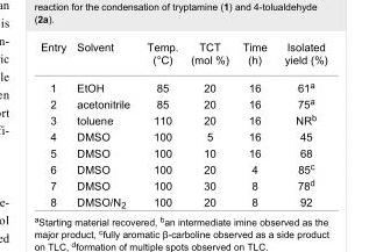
<table><tbody><tr><td>Entry</td><td>Solvent</td><td>Temp. (°C)</td><td>TCT (mol %)</td><td>Time (h)</td><td>Isolated yield (%)</td></tr><tr><td>1</td><td>EtOH</td><td>85</td><td>20</td><td>16</td><td>61<sup>a</sup></td></tr><tr><td>2</td><td>acetonitrile</td><td>85</td><td>20</td><td>16</td><td>75<sup>a</sup></td></tr><tr><td>3</td><td>toluene</td><td>110</td><td>20</td><td>16</td><td>NR<sup>b</sup></td></tr><tr><td>4</td><td>DMSO</td><td>100</td><td>5</td><td>16</td><td>45</td></tr><tr><td>5</td><td>DMSO</td><td>100</td><td>10</td><td>16</td><td>68</td></tr><tr><td>6</td><td>DMSO</td><td>100</td><td>20</td><td>4</td><td>85<sup>c</sup></td></tr><tr><td>7</td><td>DMSO</td><td>100</td><td>30</td><td>8</td><td>78<sup>d</sup></td></tr><tr><td>8</td><td>DMSO/N<sub>2</sub></td><td>100</td><td>20</td><td>8</td><td>92</td></tr></tbody></table>